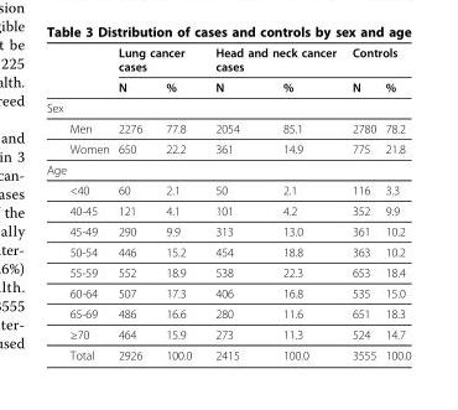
<table><thead><tr><td rowspan="2"></td><td colspan="2">Lung cancer cases</td><td colspan="2">Head and neck cancer cases</td><td colspan="2">Controls</td></tr><tr><td>N</td><td>%</td><td>N</td><td>%</td><td>N</td><td>%</td></tr></thead><tbody><tr><td colspan="7">Sex</td></tr><tr><td>Men</td><td>2276</td><td>77.8</td><td>2054</td><td>85.1</td><td>2780</td><td>78.2</td></tr><tr><td>Women</td><td>650</td><td>22.2</td><td>361</td><td>14.9</td><td>775</td><td>21.8</td></tr><tr><td colspan="7">Age</td></tr><tr><td>&lt;40</td><td>60</td><td>2.1</td><td>50</td><td>2.1</td><td>116</td><td>3.3</td></tr><tr><td>40-45</td><td>121</td><td>4.1</td><td>101</td><td>4.2</td><td>352</td><td>9.9</td></tr><tr><td>45-49</td><td>290</td><td>9.9</td><td>313</td><td>13.0</td><td>361</td><td>10.2</td></tr><tr><td>50-54</td><td>446</td><td>15.2</td><td>454</td><td>18.8</td><td>363</td><td>10.2</td></tr><tr><td>55-59</td><td>552</td><td>18.9</td><td>538</td><td>22.3</td><td>653</td><td>18.4</td></tr><tr><td>60-64</td><td>507</td><td>17.3</td><td>406</td><td>16.8</td><td>535</td><td>15.0</td></tr><tr><td>65-69</td><td>486</td><td>16.6</td><td>280</td><td>11.6</td><td>651</td><td>18.3</td></tr><tr><td>≥70</td><td>464</td><td>15.9</td><td>273</td><td>11.3</td><td>524</td><td>14.7</td></tr><tr><td>Total</td><td>2926</td><td>100.0</td><td>2415</td><td>100.0</td><td>3555</td><td>100.0</td></tr></tbody></table>